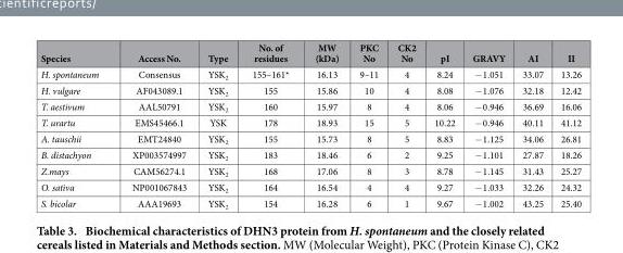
<table><thead><tr><td>Species</td><td>Access No.</td><td>Type</td><td>No. of residues</td><td>MW (kDa)</td><td>PKC No</td><td>CK2 No</td><td>pI</td><td>GRAVY</td><td>AI</td><td>II</td></tr></thead><tbody><tr><td>H. spontaneum</td><td>Consensus</td><td>YSK<sub>2</sub></td><td>155–161*</td><td>16.13</td><td>9–11</td><td>4</td><td>8.24</td><td>− 1.051</td><td>33.07</td><td>13.26</td></tr><tr><td>H. vulgare</td><td>AF043089.1</td><td>YSK<sub>2</sub></td><td>155</td><td>15.86</td><td>10</td><td>4</td><td>8.08</td><td>− 1.076</td><td>32.18</td><td>12.42</td></tr><tr><td>T. aestivum</td><td>AAL50791</td><td>YSK<sub>2</sub></td><td>160</td><td>15.97</td><td>8</td><td>4</td><td>8.06</td><td>− 0.946</td><td>36.69</td><td>16.06</td></tr><tr><td>T. urartu</td><td>EMS45466.1</td><td>YSK</td><td>178</td><td>18.93</td><td>15</td><td>5</td><td>10.22</td><td>− 0.946</td><td>40.11</td><td>41.12</td></tr><tr><td>A. tauschii</td><td>EMT24840</td><td>YSK<sub>2</sub></td><td>155</td><td>15.73</td><td>8</td><td>5</td><td>8.83</td><td>− 1.125</td><td>34.06</td><td>26.81</td></tr><tr><td>B. distachyon</td><td>XP003574997</td><td>YSK<sub>2</sub></td><td>183</td><td>18.46</td><td>6</td><td>2</td><td>9.25</td><td>− 1.101</td><td>27.87</td><td>18.26</td></tr><tr><td>Z.mays</td><td>CAM56274.1</td><td>YSK<sub>2</sub></td><td>168</td><td>17.06</td><td>8</td><td>3</td><td>8.78</td><td>− 1.145</td><td>31.43</td><td>25.27</td></tr><tr><td>O. sativa</td><td>NP001067843</td><td>YSK<sub>2</sub></td><td>164</td><td>16.54</td><td>4</td><td>4</td><td>9.27</td><td>− 1.033</td><td>32.26</td><td>24.32</td></tr><tr><td>S. bicolar</td><td>AAA19693</td><td>YSK<sub>2</sub></td><td>154</td><td>16.28</td><td>6</td><td>1</td><td>9.67</td><td>− 1.002</td><td>43.25</td><td>25.40</td></tr></tbody></table>